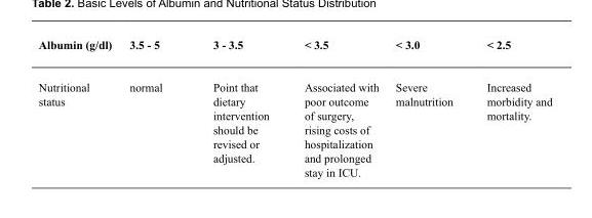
<table><thead><tr><td>Albumin (g/dl)</td><td>3.5 - 5</td><td>3 - 3.5</td><td>&lt; 3.5</td><td>&lt; 3.0</td><td>&lt; 2.5</td></tr></thead><tbody><tr><td>Nutritional status</td><td>normal</td><td>Point that dietary intervention should be revised or adjusted.</td><td>Associated with poor outcome of surgery, rising costs of hospitalization and prolonged stay in ICU.</td><td>Severe malnutrition</td><td>Increased morbidity and mortality.</td></tr></tbody></table>